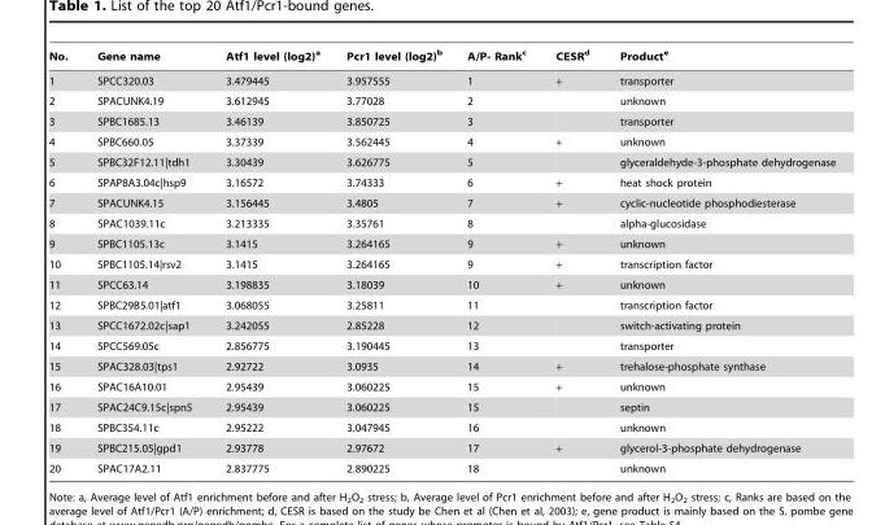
<table><thead><tr><td>No.</td><td>Gene name</td><td>Atf1 level (log2)<sup>a</sup></td><td>Pcr1 level (log2)<sup>b</sup></td><td>A/P- Rank<sup>c</sup></td><td>CESR<sup>d</sup></td><td>Product<sup>e</sup></td></tr></thead><tbody><tr><td>1</td><td>SPCC320.03</td><td>3.479445</td><td>3.957555</td><td>1</td><td>+</td><td>transporter</td></tr><tr><td>2</td><td>SPACUNK4.19</td><td>3.612945</td><td>3.77028</td><td>2</td><td></td><td>unknown</td></tr><tr><td>3</td><td>SPBC1685.13</td><td>3.46139</td><td>3.850725</td><td>3</td><td></td><td>transporter</td></tr><tr><td>4</td><td>SPBC660.05</td><td>3.37339</td><td>3.562445</td><td>4</td><td>+</td><td>unknown</td></tr><tr><td>5</td><td>SPBC32F12.11|tdh1</td><td>3.30439</td><td>3.626775</td><td>5</td><td></td><td>glyceraldehyde-3-phosphate dehydrogenase</td></tr><tr><td>6</td><td>SPAP8A3.04c|hsp9</td><td>3.16572</td><td>3.74333</td><td>6</td><td>+</td><td>heat shock protein</td></tr><tr><td>7</td><td>SPACUNK4.15</td><td>3.156445</td><td>3.4805</td><td>7</td><td>+</td><td>cyclic-nucleotide phosphodiesterase</td></tr><tr><td>8</td><td>SPAC1039.11c</td><td>3.213335</td><td>3.35761</td><td>8</td><td></td><td>alpha-glucosidase</td></tr><tr><td>9</td><td>SPBC1105.13c</td><td>3.1415</td><td>3.264165</td><td>9</td><td>+</td><td>unknown</td></tr><tr><td>10</td><td>SPBC1105.14|rsv2</td><td>3.1415</td><td>3.264165</td><td>9</td><td>+</td><td>transcription factor</td></tr><tr><td>11</td><td>SPCC63.14</td><td>3.198835</td><td>3.18039</td><td>10</td><td>+</td><td>unknown</td></tr><tr><td>12</td><td>SPBC29B5.01|atf1</td><td>3.068055</td><td>3.25811</td><td>11</td><td></td><td>transcription factor</td></tr><tr><td>13</td><td>SPCC1672.02c|sap1</td><td>3.242055</td><td>2.85228</td><td>12</td><td></td><td>switch-activating protein</td></tr><tr><td>14</td><td>SPCC569.05c</td><td>2.856775</td><td>3.190445</td><td>13</td><td></td><td>transporter</td></tr><tr><td>15</td><td>SPAC328.03|tps1</td><td>2.92722</td><td>3.0935</td><td>14</td><td>+</td><td>trehalose-phosphate synthase</td></tr><tr><td>16</td><td>SPAC16A10.01</td><td>2.95439</td><td>3.060225</td><td>15</td><td>+</td><td>unknown</td></tr><tr><td>17</td><td>SPAC24C9.15c|spn5</td><td>2.95439</td><td>3.060225</td><td>15</td><td></td><td>septin</td></tr><tr><td>18</td><td>SPBC354.11c</td><td>2.95222</td><td>3.047945</td><td>16</td><td></td><td>unknown</td></tr><tr><td>19</td><td>SPBC215.05|gpd1</td><td>2.93778</td><td>2.97672</td><td>17</td><td>+</td><td>glycerol-3-phosphate dehydrogenase</td></tr><tr><td>20</td><td>SPAC17A2.11</td><td>2.837775</td><td>2.890225</td><td>18</td><td></td><td>unknown</td></tr></tbody></table>